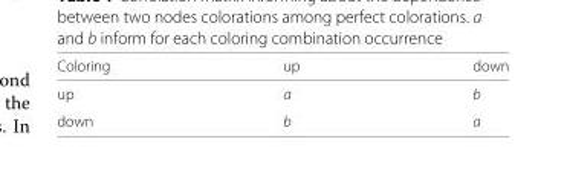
<table><thead><tr><td>Coloring</td><td>up</td><td>down</td></tr></thead><tbody><tr><td>up</td><td>a</td><td>b</td></tr><tr><td>down</td><td>b</td><td>a</td></tr></tbody></table>